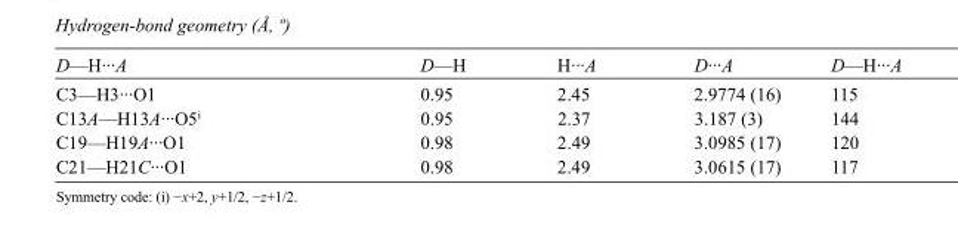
<table><tbody><tr><td>D—H···A</td><td>D—H</td><td>H···A</td><td>D···A</td><td>D—H···A</td></tr><tr><td>C3—H3···O1</td><td>0.95</td><td>2.45</td><td>2.9774 (16)</td><td>115</td></tr><tr><td>C13A—H13A···O5<sup>i</sup></td><td>0.95</td><td>2.37</td><td>3.187 (3)</td><td>144</td></tr><tr><td>C19—H19A···O1</td><td>0.98</td><td>2.49</td><td>3.0985 (17)</td><td>120</td></tr><tr><td>C21—H21C···O1</td><td>0.98</td><td>2.49</td><td>3.0615 (17)</td><td>117</td></tr></tbody></table>